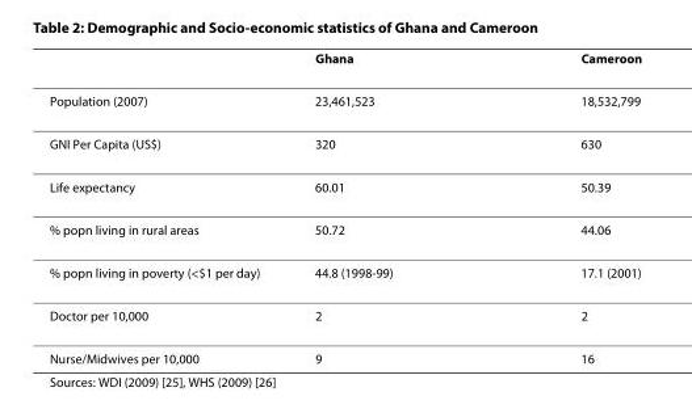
<table><thead><tr><td></td><td>Ghana</td><td>Cameroon</td></tr></thead><tbody><tr><td>Population (2007)</td><td>23,461,523</td><td>18,532,799</td></tr><tr><td>GNI Per Capita (US$)</td><td>320</td><td>630</td></tr><tr><td>Life expectancy</td><td>60.01</td><td>50.39</td></tr><tr><td>% popn living in rural areas</td><td>50.72</td><td>44.06</td></tr><tr><td>% popn living in poverty (&lt;$1 per day)</td><td>44.8 (1998-99)</td><td>17.1 (2001)</td></tr><tr><td>Doctor per 10,000</td><td>2</td><td>2</td></tr><tr><td>Nurse/Midwives per 10,000</td><td>9</td><td>16</td></tr></tbody></table>